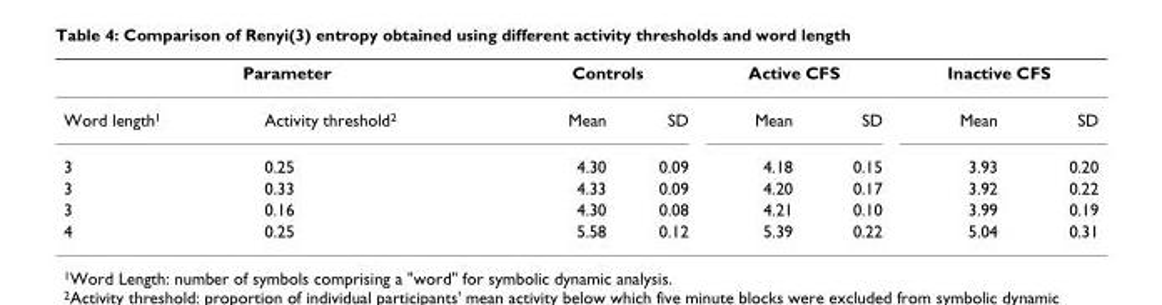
<table><thead><tr><td colspan="2">Parameter</td><td colspan="2">Controls</td><td colspan="2">Active CFS</td><td colspan="2">Inactive CFS</td></tr><tr><td>Word length<sup>1</sup></td><td>Activity threshold<sup>2</sup></td><td>Mean</td><td>SD</td><td>Mean</td><td>SD</td><td>Mean</td><td>SD</td></tr></thead><tbody><tr><td>3</td><td>0.25</td><td>4.30</td><td>0.09</td><td>4.18</td><td>0.15</td><td>3.93</td><td>0.20</td></tr><tr><td>3</td><td>0.33</td><td>4.33</td><td>0.09</td><td>4.20</td><td>0.17</td><td>3.92</td><td>0.22</td></tr><tr><td>3</td><td>0.16</td><td>4.30</td><td>0.08</td><td>4.21</td><td>0.10</td><td>3.99</td><td>0.19</td></tr><tr><td>4</td><td>0.25</td><td>5.58</td><td>0.12</td><td>5.39</td><td>0.22</td><td>5.04</td><td>0.31</td></tr></tbody></table>